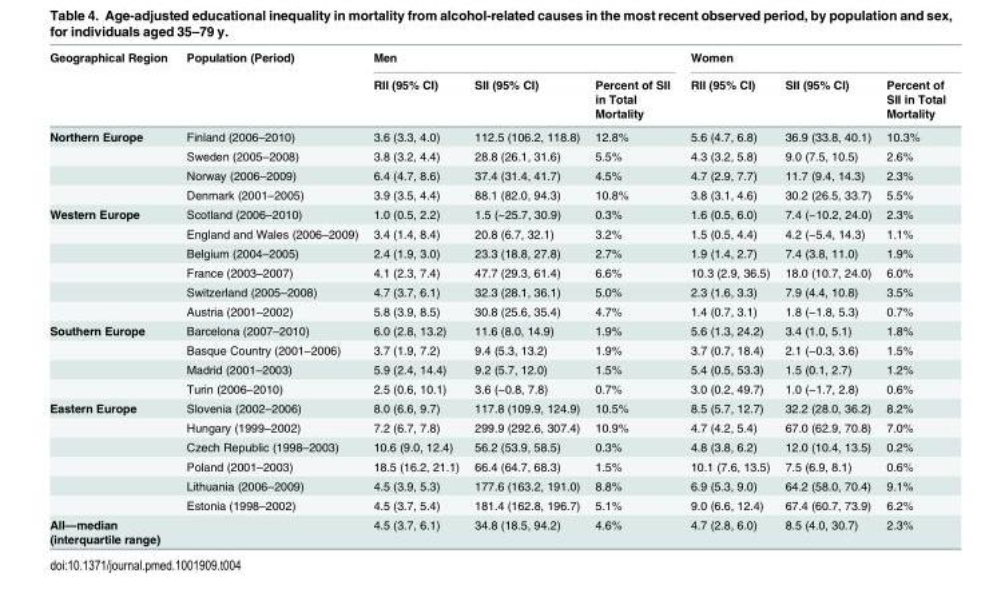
<table><thead><tr><td rowspan="2">Geographical Region</td><td rowspan="2">Population (Period)</td><td colspan="3">Men</td><td colspan="3">Women</td></tr><tr><td>RII (95% CI)</td><td>SII (95% CI)</td><td>Percent of SII in Total Mortality</td><td>RII (95% CI)</td><td>SII (95% CI)</td><td>Percent of SII in Total Mortality</td></tr></thead><tbody><tr><td rowspan="4">Northern Europe</td><td>Finland (2006–2010)</td><td>3.6 (3.3, 4.0)</td><td>112.5 (106.2, 118.8)</td><td>12.8%</td><td>5.6 (4.7, 6.8)</td><td>36.9 (33.8, 40.1)</td><td>10.3%</td></tr><tr><td>Sweden (2005–2008)</td><td>3.8 (3.2, 4.4)</td><td>28.8 (26.1, 31.6)</td><td>5.5%</td><td>4.3 (3.2, 5.8)</td><td>9.0 (7.5, 10.5)</td><td>2.6%</td></tr><tr><td>Norway (2006–2009)</td><td>6.4 (4.7, 8.6)</td><td>37.4 (31.4, 41.7)</td><td>4.5%</td><td>4.7 (2.9, 7.7)</td><td>11.7 (9.4, 14.3)</td><td>2.3%</td></tr><tr><td>Denmark (2001–2005)</td><td>3.9 (3.5, 4.4)</td><td>88.1 (82.0, 94.3)</td><td>10.8%</td><td>3.8 (3.1, 4.6)</td><td>30.2 (26.5, 33.7)</td><td>5.5%</td></tr><tr><td rowspan="6">Western Europe</td><td>Scotland (2006–2010)</td><td>1.0 (0.5, 2.2)</td><td>1.5 (−25.7, 30.9)</td><td>0.3%</td><td>1.6 (0.5, 6.0)</td><td>7.4 (−10.2, 24.0)</td><td>2.3%</td></tr><tr><td>England and Wales (2006–2009)</td><td>3.4 (1.4, 8.4)</td><td>20.8 (6.7, 32.1)</td><td>3.2%</td><td>1.5 (0.5, 4.4)</td><td>4.2 (−5.4, 14.3)</td><td>1.1%</td></tr><tr><td>Belgium (2004–2005)</td><td>2.4 (1.9, 3.0)</td><td>23.3 (18.8, 27.8)</td><td>2.7%</td><td>1.9 (1.4, 2.7)</td><td>7.4 (3.8, 11.0)</td><td>1.9%</td></tr><tr><td>France (2003–2007)</td><td>4.1 (2.3, 7.4)</td><td>47.7 (29.3, 61.4)</td><td>6.6%</td><td>10.3 (2.9, 36.5)</td><td>18.0 (10.7, 24.0)</td><td>6.0%</td></tr><tr><td>Switzerland (2005–2008)</td><td>4.7 (3.7, 6.1)</td><td>32.3 (28.1, 36.1)</td><td>5.0%</td><td>2.3 (1.6, 3.3)</td><td>7.9 (4.4, 10.8)</td><td>3.5%</td></tr><tr><td>Austria (2001–2002)</td><td>5.8 (3.9, 8.5)</td><td>30.8 (25.6, 35.4)</td><td>4.7%</td><td>1.4 (0.7, 3.1)</td><td>1.8 (−1.8, 5.3)</td><td>0.7%</td></tr><tr><td rowspan="4">Southern Europe</td><td>Barcelona (2007–2010)</td><td>6.0 (2.8, 13.2)</td><td>11.6 (8.0, 14.9)</td><td>1.9%</td><td>5.6 (1.3, 24.2)</td><td>3.4 (1.0, 5.1)</td><td>1.8%</td></tr><tr><td>Basque Country (2001–2006)</td><td>3.7 (1.9, 7.2)</td><td>9.4 (5.3, 13.2)</td><td>1.9%</td><td>3.7 (0.7, 18.4)</td><td>2.1 (−0.3, 3.6)</td><td>1.5%</td></tr><tr><td>Madrid (2001–2003)</td><td>5.9 (2.4, 14.4)</td><td>9.2 (5.7, 12.0)</td><td>1.5%</td><td>5.4 (0.5, 53.3)</td><td>1.5 (0.1, 2.7)</td><td>1.2%</td></tr><tr><td>Turin (2006–2010)</td><td>2.5 (0.6, 10.1)</td><td>3.6 (−0.8, 7.8)</td><td>0.7%</td><td>3.0 (0.2, 49.7)</td><td>1.0 (−1.7, 2.8)</td><td>0.6%</td></tr><tr><td rowspan="6">Eastern Europe</td><td>Slovenia (2002–2006)</td><td>8.0 (6.6, 9.7)</td><td>117.8 (109.9, 124.9)</td><td>10.5%</td><td>8.5 (5.7, 12.7)</td><td>32.2 (28.0, 36.2)</td><td>8.2%</td></tr><tr><td>Hungary (1999–2002)</td><td>7.2 (6.7, 7.8)</td><td>299.9 (292.6, 307.4)</td><td>10.9%</td><td>4.7 (4.2, 5.4)</td><td>67.0 (62.9, 70.8)</td><td>7.0%</td></tr><tr><td>Czech Republic (1998–2003)</td><td>10.6 (9.0, 12.4)</td><td>56.2 (53.9, 58.5)</td><td>0.3%</td><td>4.8 (3.8, 6.2)</td><td>12.0 (10.4, 13.5)</td><td>0.2%</td></tr><tr><td>Poland (2001–2003)</td><td>18.5 (16.2, 21.1)</td><td>66.4 (64.7, 68.3)</td><td>1.5%</td><td>10.1 (7.6, 13.5)</td><td>7.5 (6.9, 8.1)</td><td>0.6%</td></tr><tr><td>Lithuania (2006–2009)</td><td>4.5 (3.9, 5.3)</td><td>177.6 (163.2, 191.0)</td><td>8.8%</td><td>6.9 (5.3, 9.0)</td><td>64.2 (58.0, 70.4)</td><td>9.1%</td></tr><tr><td>Estonia (1998–2002)</td><td>4.5 (3.7, 5.4)</td><td>181.4 (162.8, 196.7)</td><td>5.1%</td><td>9.0 (6.6, 12.4)</td><td>67.4 (60.7, 73.9)</td><td>6.2%</td></tr><tr><td>All—median (interquartile range)</td><td></td><td>4.5 (3.7, 6.1)</td><td>34.8 (18.5, 94.2)</td><td>4.6%</td><td>4.7 (2.8, 6.0)</td><td>8.5 (4.0, 30.7)</td><td>2.3%</td></tr></tbody></table>